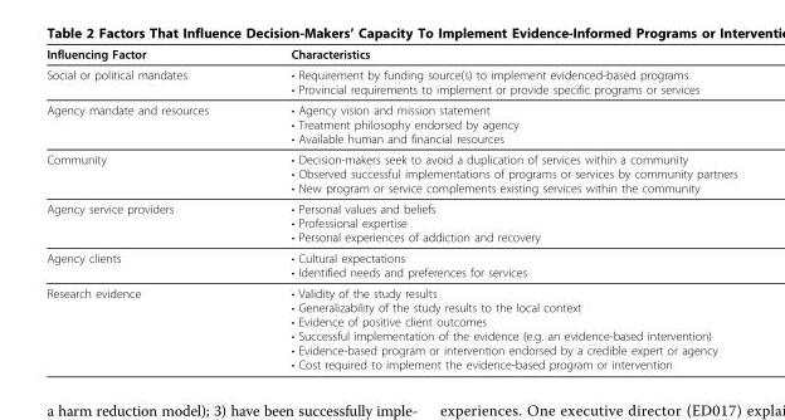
<table><thead><tr><td>Influencing Factor</td><td>Characteristics</td></tr></thead><tbody><tr><td>Social or political mandates</td><td>• Requirement by funding source(s) to implement evidenced-based programs • Provincial requirements to implement or provide specific programs or services</td></tr><tr><td>Agency mandate and resources</td><td>• Agency vision and mission statement • Treatment philosophy endorsed by agency • Available human and financial resources</td></tr><tr><td>Community</td><td>• Decision-makers seek to avoid a duplication of services within a community • Observed successful implementations of programs or services by community partners • New program or service complements existing services within the community</td></tr><tr><td>Agency service providers</td><td>• Personal values and beliefs • Professional expertise • Personal experiences of addiction and recovery</td></tr><tr><td>Agency clients</td><td>• Cultural expectations • Identified needs and preferences for services</td></tr><tr><td>Research evidence</td><td>• Validity of the study results • Generalizability of the study results to the local context • Evidence of positive client outcomes • Successful implementation of the evidence (e.g. an evidence-based intervention) • Evidence-based program or intervention endorsed by a credible expert or agency • Cost required to implement the evidence-based program or intervention</td></tr></tbody></table>